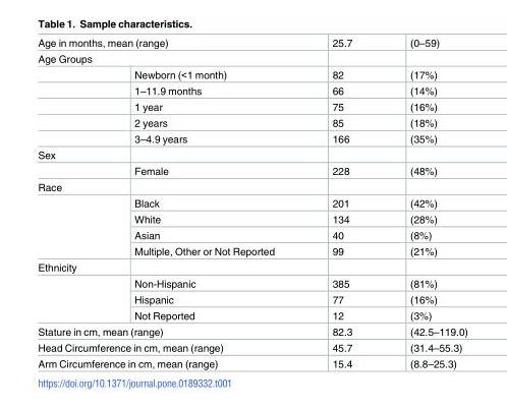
<table><tbody><tr><td colspan="2">Age in months, mean (range)</td><td>25.7</td><td>(0–59)</td></tr><tr><td colspan="4">Age Groups</td></tr><tr><td></td><td>Newborn (&lt;1 month)</td><td>82</td><td>(17%)</td></tr><tr><td></td><td>1–11.9 months</td><td>66</td><td>(14%)</td></tr><tr><td></td><td>1 year</td><td>75</td><td>(16%)</td></tr><tr><td></td><td>2 years</td><td>85</td><td>(18%)</td></tr><tr><td></td><td>3–4.9 years</td><td>166</td><td>(35%)</td></tr><tr><td colspan="4">Sex</td></tr><tr><td></td><td>Female</td><td>228</td><td>(48%)</td></tr><tr><td colspan="4">Race</td></tr><tr><td rowspan="4"></td><td>Black</td><td>201</td><td>(42%)</td></tr><tr><td>White</td><td>134</td><td>(28%)</td></tr><tr><td>Asian</td><td>40</td><td>(8%)</td></tr><tr><td>Multiple, Other or Not Reported</td><td>99</td><td>(21%)</td></tr><tr><td colspan="4">Ethnicity</td></tr><tr><td rowspan="3"></td><td>Non-Hispanic</td><td>385</td><td>(81%)</td></tr><tr><td>Hispanic</td><td>77</td><td>(16%)</td></tr><tr><td>Not Reported</td><td>12</td><td>(3%)</td></tr><tr><td colspan="2">Stature in cm, mean (range)</td><td>82.3</td><td>(42.5–119.0)</td></tr><tr><td colspan="2">Head Circumference in cm, mean (range)</td><td>45.7</td><td>(31.4–55.3)</td></tr><tr><td colspan="2">Arm Circumference in cm, mean (range)</td><td>15.4</td><td>(8.8–25.3)</td></tr></tbody></table>